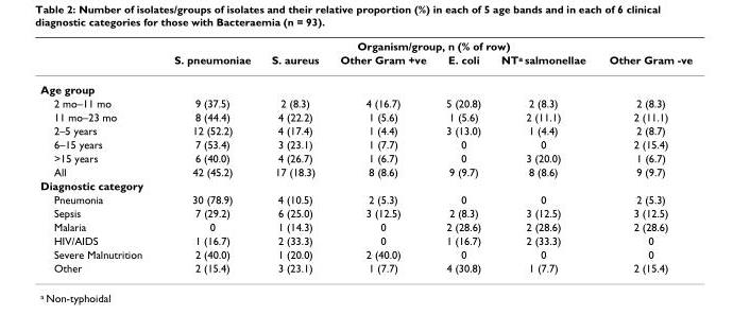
<table><thead><tr><td rowspan="2"></td><td colspan="6">Organism/group, n (% of row)</td></tr><tr><td>S. pneumoniae</td><td>S. aureus</td><td>Other Gram +ve</td><td>E. coli</td><td>NT<sup>a</sup> salmonellae</td><td>Other Gram -ve</td></tr></thead><tbody><tr><td colspan="7">Age group</td></tr><tr><td>2 mo–11 mo</td><td>9 (37.5)</td><td>2 (8.3)</td><td>4 (16.7)</td><td>5 (20.8)</td><td>2 (8.3)</td><td>2 (8.3)</td></tr><tr><td>11 mo–23 mo</td><td>8 (44.4)</td><td>4 (22.2)</td><td>1 (5.6)</td><td>1 (5.6)</td><td>2 (11.1)</td><td>2 (11.1)</td></tr><tr><td>2–5 years</td><td>12 (52.2)</td><td>4 (17.4)</td><td>1 (4.4)</td><td>3 (13.0)</td><td>1 (4.4)</td><td>2 (8.7)</td></tr><tr><td>6–15 years</td><td>7 (53.4)</td><td>3 (23.1)</td><td>1 (7.7)</td><td>0</td><td>0</td><td>2 (15.4)</td></tr><tr><td>&gt;15 years</td><td>6 (40.0)</td><td>4 (26.7)</td><td>1 (6.7)</td><td>0</td><td>3 (20.0)</td><td>1 (6.7)</td></tr><tr><td>All</td><td>42 (45.2)</td><td>17 (18.3)</td><td>8 (8.6)</td><td>9 (9.7)</td><td>8 (8.6)</td><td>9 (9.7)</td></tr><tr><td colspan="7">Diagnostic category</td></tr><tr><td>Pneumonia</td><td>30 (78.9)</td><td>4 (10.5)</td><td>2 (5.3)</td><td>0</td><td>0</td><td>2 (5.3)</td></tr><tr><td>Sepsis</td><td>7 (29.2)</td><td>6 (25.0)</td><td>3 (12.5)</td><td>2 (8.3)</td><td>3 (12.5)</td><td>3 (12.5)</td></tr><tr><td>Malaria</td><td>0</td><td>1 (14.3)</td><td>0</td><td>2 (28.6)</td><td>2 (28.6)</td><td>2 (28.6)</td></tr><tr><td>HIV/AIDS</td><td>1 (16.7)</td><td>2 (33.3)</td><td>0</td><td>1 (16.7)</td><td>2 (33.3)</td><td>0</td></tr><tr><td>Severe Malnutrition</td><td>2 (40.0)</td><td>1 (20.0)</td><td>2 (40.0)</td><td>0</td><td>0</td><td>0</td></tr><tr><td>Other</td><td>2 (15.4)</td><td>3 (23.1)</td><td>1 (7.7)</td><td>4 (30.8)</td><td>1 (7.7)</td><td>2 (15.4)</td></tr></tbody></table>